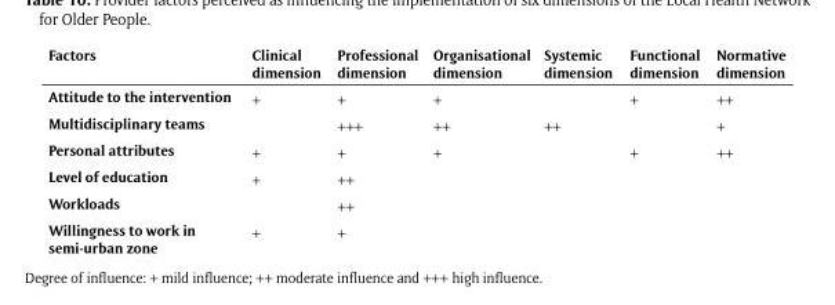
<table><thead><tr><td>Factors</td><td>Clinical dimension</td><td>Professional dimension</td><td>Organisational dimension</td><td>Systemic dimension</td><td>Functional dimension</td><td>Normative dimension</td></tr></thead><tbody><tr><td>Attitude to the intervention</td><td>+</td><td>+</td><td>+</td><td></td><td>+</td><td>++</td></tr><tr><td>Multidisciplinary teams</td><td></td><td>+++</td><td>++</td><td>++</td><td></td><td>+</td></tr><tr><td>Personal attributes</td><td>+</td><td>+</td><td>+</td><td></td><td>+</td><td>++</td></tr><tr><td>Level of education</td><td>+</td><td>++</td><td></td><td></td><td></td><td></td></tr><tr><td>Workloads</td><td></td><td>++</td><td></td><td></td><td></td><td></td></tr><tr><td>Willingness to work in semi-urban zone</td><td>+</td><td>+</td><td></td><td></td><td></td><td></td></tr></tbody></table>